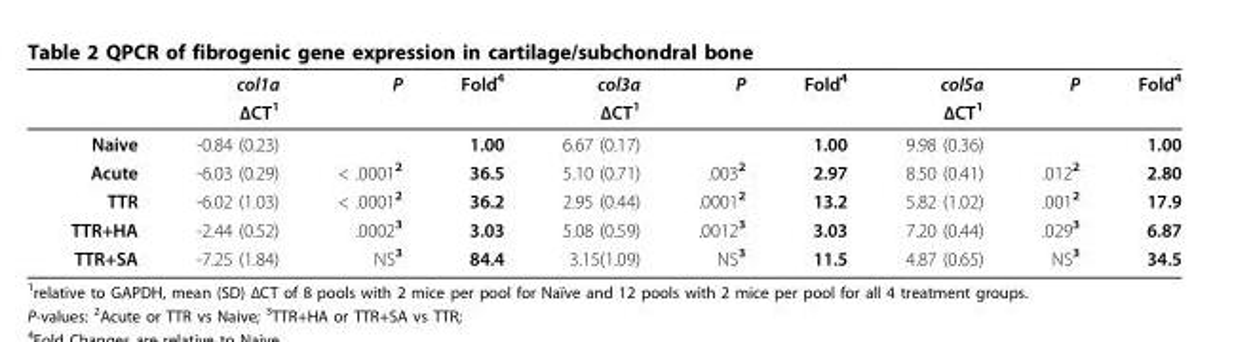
<table><thead><tr><td rowspan="2"></td><td rowspan="2">col1a ΔCT<sup>1</sup></td><td rowspan="2">P</td><td rowspan="2">Fold<sup>4</sup></td><td rowspan="2">col3a ΔCT<sup>1</sup></td><td rowspan="2">P</td><td rowspan="2">Fold<sup>4</sup></td><td rowspan="2">col5a ΔCT<sup>1</sup></td><td rowspan="2">P</td><td rowspan="2">Fold<sup>4</sup></td></tr><tr></tr></thead><tbody><tr><td>Naive</td><td>-0.84 (0.23)</td><td></td><td>1.00</td><td>6.67 (0.17)</td><td></td><td>1.00</td><td>9.98 (0.36)</td><td></td><td>1.00</td></tr><tr><td>Acute</td><td>-6.03 (0.29)</td><td>&lt; .0001<sup>2</sup></td><td>36.5</td><td>5.10 (0.71)</td><td>.003<sup>2</sup></td><td>2.97</td><td>8.50 (0.41)</td><td>.012<sup>2</sup></td><td>2.80</td></tr><tr><td>TTR</td><td>-6.02 (1.03)</td><td>&lt; .0001<sup>2</sup></td><td>36.2</td><td>2.95 (0.44)</td><td>.0001<sup>2</sup></td><td>13.2</td><td>5.82 (1.02)</td><td>.001<sup>2</sup></td><td>17.9</td></tr><tr><td>TTR+HA</td><td>-2.44 (0.52)</td><td>.0002<sup>3</sup></td><td>3.03</td><td>5.08 (0.59)</td><td>.0012<sup>3</sup></td><td>3.03</td><td>7.20 (0.44)</td><td>.029<sup>3</sup></td><td>6.87</td></tr><tr><td>TTR+SA</td><td>-7.25 (1.84)</td><td>NS<sup>3</sup></td><td>84.4</td><td>3.15(1.09)</td><td>NS<sup>3</sup></td><td>11.5</td><td>4.87 (0.65)</td><td>NS<sup>3</sup></td><td>34.5</td></tr></tbody></table>